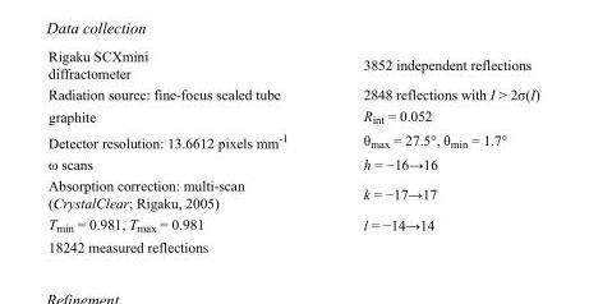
<table><tbody><tr><td>Rigaku SCXmini diffractometer</td><td>3852 independent reflections</td></tr><tr><td>Radiation source: fine-focus sealed tube</td><td>2848 reflections with I &gt; 2σ(I)</td></tr><tr><td>graphite</td><td>R<sub>int</sub> = 0.052</td></tr><tr><td>Detector resolution: 13.6612 pixels mm<sup>-1</sup></td><td>θ<sub>max</sub> = 27.5°, θ<sub>min</sub> = 1.7°</td></tr><tr><td>ω scans</td><td>h = −16→16</td></tr><tr><td>Absorption correction: multi-scan (CrystalClear; Rigaku, 2005)</td><td>k = −17→17</td></tr><tr><td>T<sub>min</sub> = 0.981, T<sub>max</sub> = 0.981</td><td>l = −14→14</td></tr><tr><td>18242 measured reflections</td><td></td></tr></tbody></table>